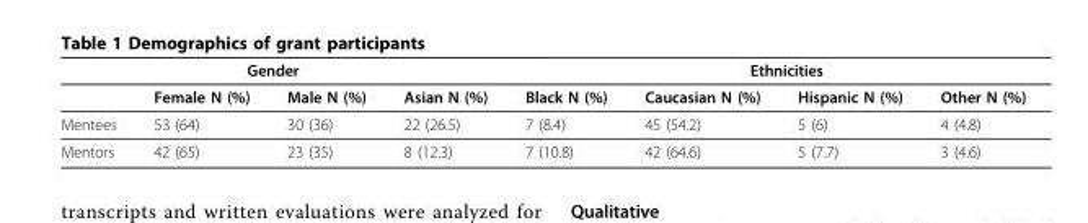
<table><thead><tr><td rowspan="2"></td><td colspan="2">Gender</td><td rowspan="2">Asian N (%)</td><td rowspan="2">Black N (%)</td><td colspan="2">Ethnicities</td><td rowspan="2">Other N (%)</td></tr><tr><td>Female N (%)</td><td>Male N (%)</td><td>Caucasian N (%)</td><td>Hispanic N (%)</td></tr></thead><tbody><tr><td>Mentees</td><td>53 (64)</td><td>30 (36)</td><td>22 (26.5)</td><td>7 (8.4)</td><td>45 (54.2)</td><td>5 (6)</td><td>4 (4.8)</td></tr><tr><td>Mentors</td><td>42 (65)</td><td>23 (35)</td><td>8 (12.3)</td><td>7 (10.8)</td><td>42 (64.6)</td><td>5 (7.7)</td><td>3 (4.6)</td></tr></tbody></table>